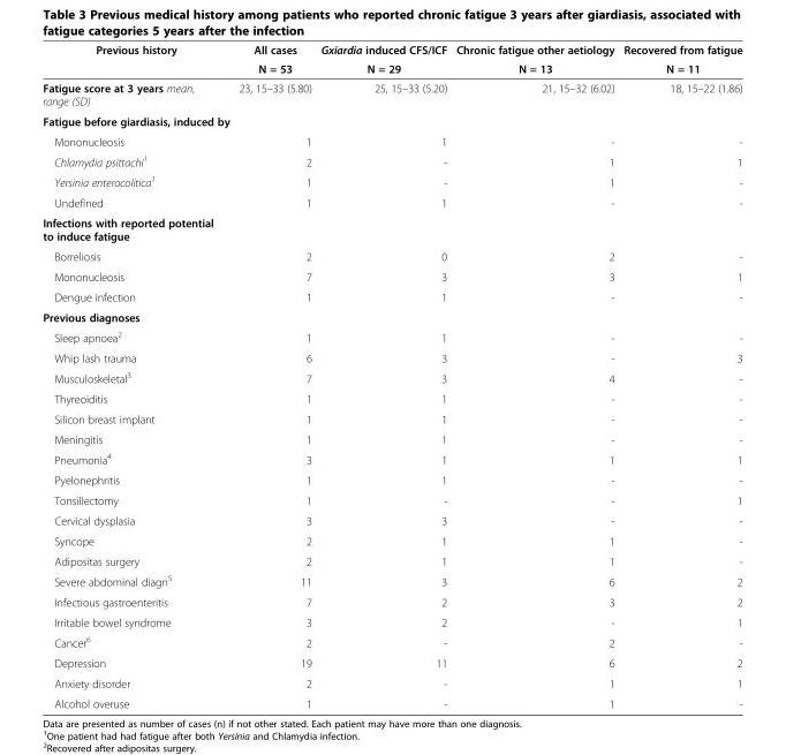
<table><thead><tr><td rowspan="2">Previous history</td><td rowspan="2">All cases N = 53</td><td rowspan="2">Gxiardia induced CFS/ICF N = 29</td><td rowspan="2">Chronic fatigue other aetiology N = 13</td><td rowspan="2">Recovered from fatigue N = 11</td></tr><tr></tr></thead><tbody><tr><td>Fatigue score at 3 years mean, range (SD)</td><td>23, 15–33 (5.80)</td><td>25, 15–33 (5.20)</td><td>21, 15–32 (6.02)</td><td>18, 15–22 (1.86)</td></tr><tr><td colspan="5">Fatigue before giardiasis, induced by</td></tr><tr><td>Mononucleosis</td><td>1</td><td>1</td><td>-</td><td>-</td></tr><tr><td>Chlamydia psittachi<sup>1</sup></td><td>2</td><td>-</td><td>1</td><td>1</td></tr><tr><td>Yersinia enterocolitica<sup>1</sup></td><td>1</td><td>-</td><td>1</td><td>-</td></tr><tr><td>Undefined</td><td>1</td><td>1</td><td>-</td><td>-</td></tr><tr><td colspan="5">Infections with reported potential to induce fatigue</td></tr><tr><td>Borreliosis</td><td>2</td><td>0</td><td>2</td><td>-</td></tr><tr><td>Mononucleosis</td><td>7</td><td>3</td><td>3</td><td>1</td></tr><tr><td>Dengue infection</td><td>1</td><td>1</td><td>-</td><td>-</td></tr><tr><td colspan="5">Previous diagnoses</td></tr><tr><td>Sleep apnoea<sup>2</sup></td><td>1</td><td>1</td><td>-</td><td>-</td></tr><tr><td>Whip lash trauma</td><td>6</td><td>3</td><td>-</td><td>3</td></tr><tr><td>Musculoskeletal<sup>3</sup></td><td>7</td><td>3</td><td>4</td><td>-</td></tr><tr><td>Thyreoiditis</td><td>1</td><td>1</td><td>-</td><td>-</td></tr><tr><td>Silicon breast implant</td><td>1</td><td>1</td><td>-</td><td>-</td></tr><tr><td>Meningitis</td><td>1</td><td>1</td><td>-</td><td>-</td></tr><tr><td>Pneumonia<sup>4</sup></td><td>3</td><td>1</td><td>1</td><td>1</td></tr><tr><td>Pyelonephritis</td><td>1</td><td>1</td><td>-</td><td>-</td></tr><tr><td>Tonsillectomy</td><td>1</td><td>-</td><td>-</td><td>1</td></tr><tr><td>Cervical dysplasia</td><td>3</td><td>3</td><td>-</td><td>-</td></tr><tr><td>Syncope</td><td>2</td><td>1</td><td>1</td><td>-</td></tr><tr><td>Adipositas surgery</td><td>2</td><td>1</td><td>1</td><td>-</td></tr><tr><td>Severe abdominal diagn<sup>5</sup></td><td>11</td><td>3</td><td>6</td><td>2</td></tr><tr><td>Infectious gastroenteritis</td><td>7</td><td>2</td><td>3</td><td>2</td></tr><tr><td>Irritable bowel syndrome</td><td>3</td><td>2</td><td>-</td><td>1</td></tr><tr><td>Cancer<sup>6</sup></td><td>2</td><td>-</td><td>2</td><td>-</td></tr><tr><td>Depression</td><td>19</td><td>11</td><td>6</td><td>2</td></tr><tr><td>Anxiety disorder</td><td>2</td><td>-</td><td>1</td><td>1</td></tr><tr><td>Alcohol overuse</td><td>1</td><td>-</td><td>1</td><td>-</td></tr></tbody></table>